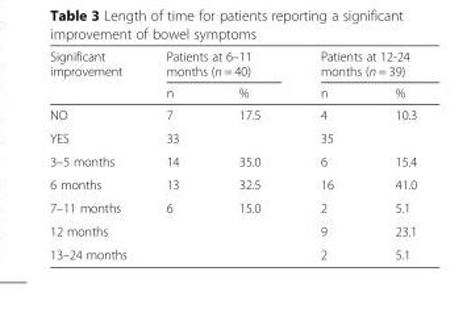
<table><thead><tr><td rowspan="2">Significant improvement</td><td colspan="2">Patients at 6–11 months (n = 40)</td><td colspan="2">Patients at 12-24 months (n = 39)</td></tr><tr><td>n</td><td>%</td><td>n</td><td>%</td></tr></thead><tbody><tr><td>NO</td><td>7</td><td>17.5</td><td>4</td><td>10.3</td></tr><tr><td>YES</td><td>33</td><td></td><td>35</td><td></td></tr><tr><td>3–5 months</td><td>14</td><td>35.0</td><td>6</td><td>15.4</td></tr><tr><td>6 months</td><td>13</td><td>32.5</td><td>16</td><td>41.0</td></tr><tr><td>7–11 months</td><td>6</td><td>15.0</td><td>2</td><td>5.1</td></tr><tr><td>12 months</td><td></td><td></td><td>9</td><td>23.1</td></tr><tr><td>13–24 months</td><td></td><td></td><td>2</td><td>5.1</td></tr></tbody></table>